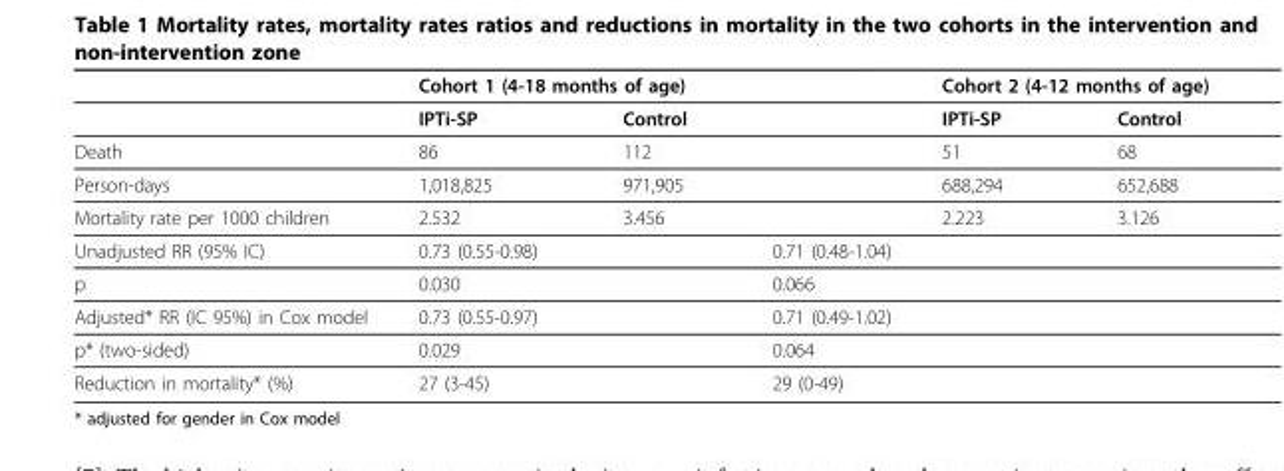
<table><thead><tr><td rowspan="2"></td><td colspan="2">Cohort 1 (4-18 months of age)</td><td colspan="2">Cohort 2 (4-12 months of age)</td></tr><tr><td>IPTi-SP</td><td>Control</td><td>IPTi-SP</td><td>Control</td></tr></thead><tbody><tr><td>Death</td><td>86</td><td>112</td><td>51</td><td>68</td></tr><tr><td>Person-days</td><td>1,018,825</td><td>971,905</td><td>688,294</td><td>652,688</td></tr><tr><td>Mortality rate per 1000 children</td><td>2.532</td><td>3.456</td><td>2.223</td><td>3.126</td></tr><tr><td>Unadjusted RR (95% IC)</td><td>0.73 (0.55-0.98)</td><td></td><td>0.71 (0.48-1.04)</td><td></td></tr><tr><td>p</td><td>0.030</td><td></td><td>0.066</td><td></td></tr><tr><td>Adjusted* RR (IC 95%) in Cox model</td><td>0.73 (0.55-0.97)</td><td></td><td>0.71 (0.49-1.02)</td><td></td></tr><tr><td>p* (two-sided)</td><td>0.029</td><td></td><td>0.064</td><td></td></tr><tr><td>Reduction in mortality* (%)</td><td>27 (3-45)</td><td></td><td>29 (0-49)</td><td></td></tr></tbody></table>